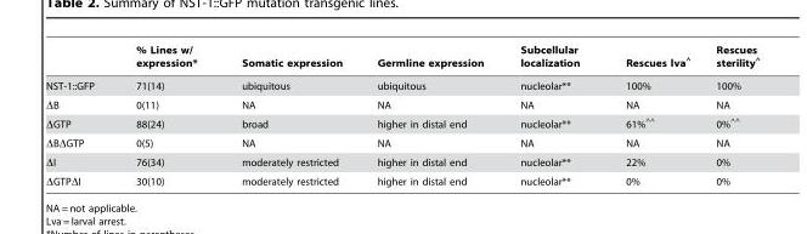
<table><thead><tr><td></td><td>% Lines w/ expression*</td><td>Somatic expression</td><td>Germline expression</td><td>Subcellular localization</td><td>Rescues lva^</td><td>Rescues sterility^</td></tr></thead><tbody><tr><td>NST-1::GFP</td><td>71(14)</td><td>ubiquitous</td><td>ubiquitous</td><td>nucleolar**</td><td>100%</td><td>100%</td></tr><tr><td>ΔB</td><td>0(11)</td><td>NA</td><td>NA</td><td>NA</td><td>NA</td><td>NA</td></tr><tr><td>ΔGTP</td><td>88(24)</td><td>broad</td><td>higher in distal end</td><td>nucleolar**</td><td>61%^^</td><td>0%^^</td></tr><tr><td>ΔBΔGTP</td><td>0(5)</td><td>NA</td><td>NA</td><td>NA</td><td>NA</td><td>NA</td></tr><tr><td>ΔI</td><td>76(34)</td><td>moderately restricted</td><td>higher in distal end</td><td>nucleolar**</td><td>22%</td><td>0%</td></tr><tr><td>ΔGTPΔI</td><td>30(10)</td><td>moderately restricted</td><td>higher in distal end</td><td>nucleolar**</td><td>0%</td><td>0%</td></tr></tbody></table>